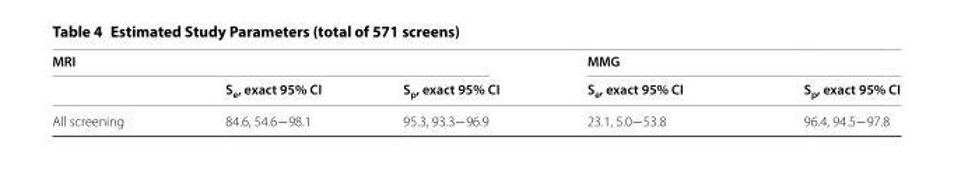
<table><thead><tr><td colspan="3">MRI</td><td colspan="2">MMG</td></tr><tr><td></td><td>S<sub>e</sub>, exact 95% CI</td><td>S<sub>p</sub>, exact 95% CI</td><td>S<sub>e</sub>, exact 95% CI</td><td>S<sub>p</sub>, exact 95% CI</td></tr></thead><tbody><tr><td>All screening</td><td>84.6, 54.6−98.1</td><td>95.3, 93.3−96.9</td><td>23.1, 5.0−53.8</td><td>96.4, 94.5−97.8</td></tr></tbody></table>